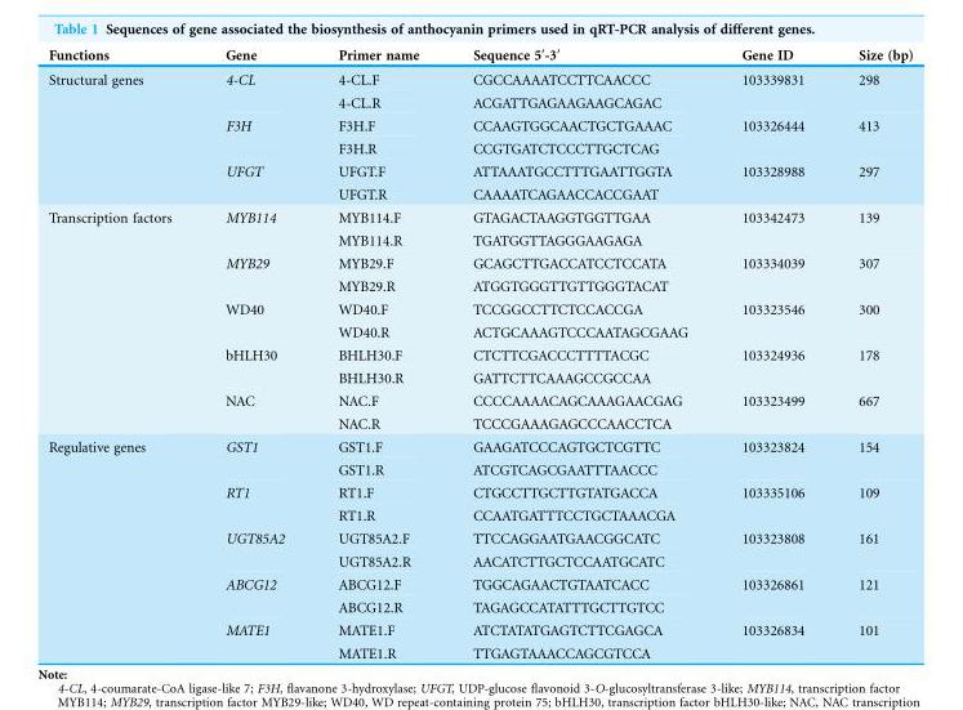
<table><thead><tr><td>Functions</td><td>Gene</td><td>Primer name</td><td>Sequence 5′-3′</td><td>Gene ID</td><td>Size (bp)</td></tr></thead><tbody><tr><td rowspan="6">Structural genes</td><td rowspan="2">4-CL</td><td>4-CL.F</td><td>CGCCAAAATCCTTCAACCC</td><td rowspan="2">103339831</td><td rowspan="2">298</td></tr><tr><td>4-CL.R</td><td>ACGATTGAGAAGAAGCAGAC</td></tr><tr><td rowspan="2">F3H</td><td>F3H.F</td><td>CCAAGTGGCAACTGCTGAAAC</td><td rowspan="2">103326444</td><td rowspan="2">413</td></tr><tr><td>F3H.R</td><td>CCGTGATCTCCCTTGCTCAG</td></tr><tr><td rowspan="2">UFGT</td><td>UFGT.F</td><td>ATTAAATGCCTTTGAATTGGTA</td><td rowspan="2">103328988</td><td rowspan="2">297</td></tr><tr><td>UFGT.R</td><td>CAAAATCAGAACCACCGAAT</td></tr><tr><td rowspan="10">Transcription factors</td><td rowspan="2">MYB114</td><td>MYB114.F</td><td>GTAGACTAAGGTGGTTGAA</td><td rowspan="2">103342473</td><td rowspan="2">139</td></tr><tr><td>MYB114.R</td><td>TGATGGTTAGGGAAGAGA</td></tr><tr><td rowspan="2">MYB29</td><td>MYB29.F</td><td>GCAGCTTGACCATCCTCCATA</td><td rowspan="2">103334039</td><td rowspan="2">307</td></tr><tr><td>MYB29.R</td><td>ATGGTGGGTTGTTGGGTACAT</td></tr><tr><td rowspan="2">WD40</td><td>WD40.F</td><td>TCCGGCCTTCTCCACCGA</td><td rowspan="2">103323546</td><td rowspan="2">300</td></tr><tr><td>WD40.R</td><td>ACTGCAAAGTCCCAATAGCGAAG</td></tr><tr><td rowspan="2">bHLH30</td><td>BHLH30.F</td><td>CTCTTCGACCCTTTTACGC</td><td rowspan="2">103324936</td><td rowspan="2">178</td></tr><tr><td>BHLH30.R</td><td>GATTCTTCAAAGCCGCCAA</td></tr><tr><td rowspan="2">NAC</td><td>NAC.F</td><td>CCCCAAAACAGCAAAGAACGAG</td><td rowspan="2">103323499</td><td rowspan="2">667</td></tr><tr><td>NAC.R</td><td>TCCCGAAAGAGCCCAACCTCA</td></tr><tr><td rowspan="10">Regulative genes</td><td rowspan="2">GST1</td><td>GST1.F</td><td>GAAGATCCCAGTGCTCGTTC</td><td rowspan="2">103323824</td><td rowspan="2">154</td></tr><tr><td>GST1.R</td><td>ATCGTCAGCGAATTTAACCC</td></tr><tr><td rowspan="2">RT1</td><td>RT1.F</td><td>CTGCCTTGCTTGTATGACCA</td><td rowspan="2">103335106</td><td rowspan="2">109</td></tr><tr><td>RT1.R</td><td>CCAATGATTTCCTGCTAAACGA</td></tr><tr><td rowspan="2">UGT85A2</td><td>UGT85A2.F</td><td>TTCCAGGAATGAACGGCATC</td><td rowspan="2">103323808</td><td rowspan="2">161</td></tr><tr><td>UGT85A2.R</td><td>AACATCTTGCTCCAATGCATC</td></tr><tr><td rowspan="2">ABCG12</td><td>ABCG12.F</td><td>TGGCAGAACTGTAATCACC</td><td rowspan="2">103326861</td><td rowspan="2">121</td></tr><tr><td>ABCG12.R</td><td>TAGAGCCATATTTGCTTGTCC</td></tr><tr><td rowspan="2">MATE1</td><td>MATE1.F</td><td>ATCTATATGAGTCTTCGAGCA</td><td rowspan="2">103326834</td><td rowspan="2">101</td></tr><tr><td>MATE1.R</td><td>TTGAGTAAACCAGCGTCCA</td></tr></tbody></table>